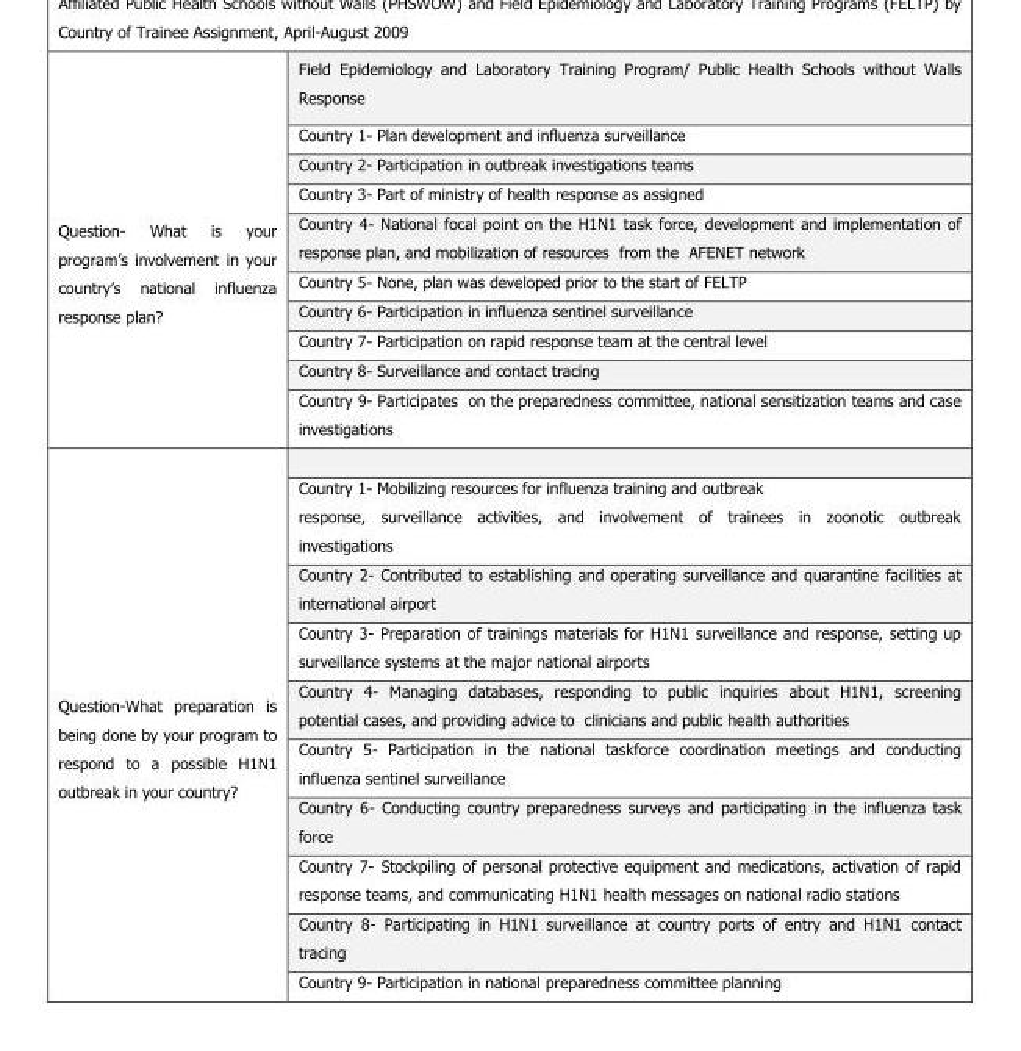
<table><tbody><tr><td rowspan="10">Question- What is your program’s involvement in your country’s national influenza response plan?</td><td>Field Epidemiology and Laboratory Training Program/ Public Health Schools without Walls Response</td></tr><tr><td>Country 1- Plan development and influenza surveillance</td></tr><tr><td>Country 2- Participation in outbreak investigations teams</td></tr><tr><td>Country 3- Part of ministry of health response as assigned</td></tr><tr><td>Country 4- National focal point on the H1N1 task force, development and implementation of response plan, and mobilization of resources from the AFENET network</td></tr><tr><td>Country 5- None, plan was developed prior to the start of FELTP</td></tr><tr><td>Country 6- Participation in influenza sentinel surveillance</td></tr><tr><td>Country 7- Participation on rapid response team at the central level</td></tr><tr><td>Country 8- Surveillance and contact tracing</td></tr><tr><td>Country 9- Participates on the preparedness committee, national sensitization teams and case investigations</td></tr><tr><td rowspan="9">Question-What preparation is being done by your program to respond to a possible H1N1 outbreak in your country?</td><td>Country 1- Mobilizing resources for influenza training and outbreak response, surveillance activities, and involvement of trainees in zoonotic outbreak investigations</td></tr><tr><td>Country 2- Contributed to establishing and operating surveillance and quarantine facilities at international airport</td></tr><tr><td>Country 3- Preparation of trainings materials for H1N1 surveillance and response, setting up surveillance systems at the major national airports</td></tr><tr><td>Country 4- Managing databases, responding to public inquiries about H1N1, screening potential cases, and providing advice to clinicians and public health authorities</td></tr><tr><td>Country 5- Participation in the national taskforce coordination meetings and conducting influenza sentinel surveillance</td></tr><tr><td>Country 6- Conducting country preparedness surveys and participating in the influenza task force</td></tr><tr><td>Country 7- Stockpiling of personal protective equipment and medications, activation of rapid response teams, and communicating H1N1 health messages on national radio stations</td></tr><tr><td>Country 8- Participating in H1N1 surveillance at country ports of entry and H1N1 contact tracing</td></tr><tr><td>Country 9- Participation in national preparedness committee planning</td></tr></tbody></table>